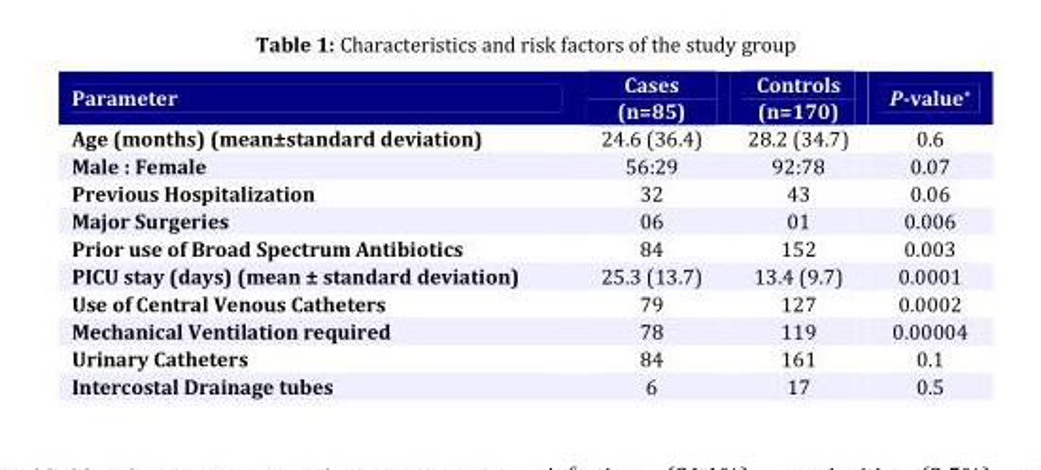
<table><thead><tr><td>Parameter</td><td>Cases (n=85)</td><td>Controls (n=170)</td><td>P-value*</td></tr></thead><tbody><tr><td>Age (months) (mean±standard deviation)</td><td>24.6 (36.4)</td><td>28.2 (34.7)</td><td>0.6</td></tr><tr><td>Male : Female</td><td>56:29</td><td>92:78</td><td>0.07</td></tr><tr><td>Previous Hospitalization</td><td>32</td><td>43</td><td>0.06</td></tr><tr><td>Major Surgeries</td><td>06</td><td>01</td><td>0.006</td></tr><tr><td>Prior use of Broad Spectrum Antibiotics</td><td>84</td><td>152</td><td>0.003</td></tr><tr><td>PICU stay (days) (mean ± standard deviation)</td><td>25.3 (13.7)</td><td>13.4 (9.7)</td><td>0.0001</td></tr><tr><td>Use of Central Venous Catheters</td><td>79</td><td>127</td><td>0.0002</td></tr><tr><td>Mechanical Ventilation required</td><td>78</td><td>119</td><td>0.00004</td></tr><tr><td>Urinary Catheters</td><td>84</td><td>161</td><td>0.1</td></tr><tr><td>Intercostal Drainage tubes</td><td>6</td><td>17</td><td>0.5</td></tr></tbody></table>